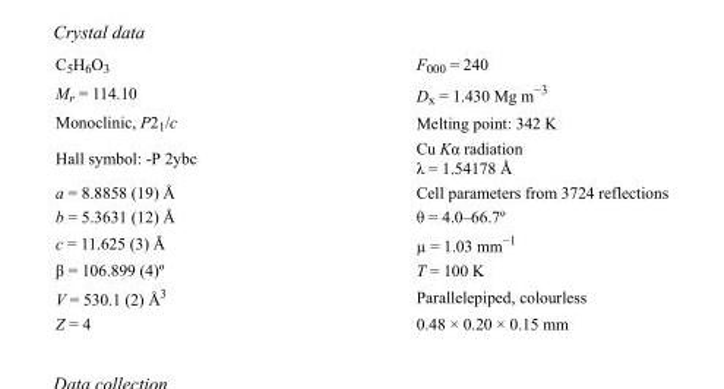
<table><tbody><tr><td>C<sub>5</sub>H<sub>6</sub>O<sub>3</sub></td><td>F000 = 240</td></tr><tr><td>M<sub>r</sub> = 114.10</td><td>D<sub>x</sub> = 1.430 Mg m<sup>−3</sup></td></tr><tr><td>Monoclinic, P2<sub>1</sub>/c</td><td>Melting point: 342 K</td></tr><tr><td>Hall symbol: -P 2ybc</td><td>Cu Kα radiation λ = 1.54178 Å</td></tr><tr><td>a = 8.8858 (19) Å</td><td>Cell parameters from 3724 reflections</td></tr><tr><td>b = 5.3631 (12) Å</td><td>θ = 4.0–66.7º</td></tr><tr><td>c = 11.625 (3) Å</td><td>µ = 1.03 mm<sup>−1</sup></td></tr><tr><td>β = 106.899 (4)º</td><td>T = 100 K</td></tr><tr><td>V = 530.1 (2) Å<sup>3</sup></td><td>Parallelepiped, colourless</td></tr><tr><td>Z = 4</td><td>0.48 × 0.20 × 0.15 mm</td></tr></tbody></table>